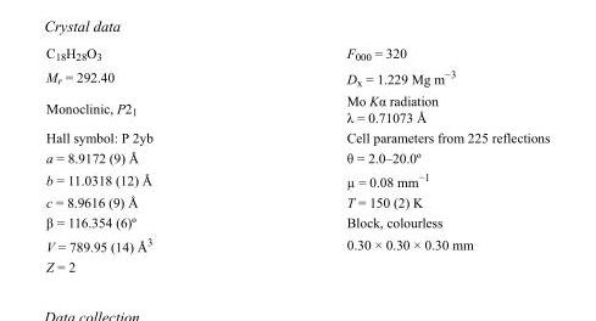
<table><tbody><tr><td>C<sub>18</sub>H<sub>28</sub>O<sub>3</sub></td><td>F<sub>000</sub> = 320</td></tr><tr><td>M<sub>r</sub> = 292.40</td><td>D<sub>x</sub> = 1.229 Mg m<sup>−3</sup></td></tr><tr><td>Monoclinic, P2<sub>1</sub></td><td>Mo Kα radiation λ = 0.71073 Å</td></tr><tr><td>Hall symbol: P 2yb</td><td>Cell parameters from 225 reflections</td></tr><tr><td>a = 8.9172 (9) Å</td><td>θ = 2.0–20.0º</td></tr><tr><td>b = 11.0318 (12) Å</td><td>µ = 0.08 mm<sup>−1</sup></td></tr><tr><td>c = 8.9616 (9) Å</td><td>T = 150 (2) K</td></tr><tr><td>β = 116.354 (6)º</td><td>Block, colourless</td></tr><tr><td>V = 789.95 (14) Å<sup>3</sup></td><td>0.30 × 0.30 × 0.30 mm</td></tr><tr><td>Z = 2</td><td></td></tr></tbody></table>